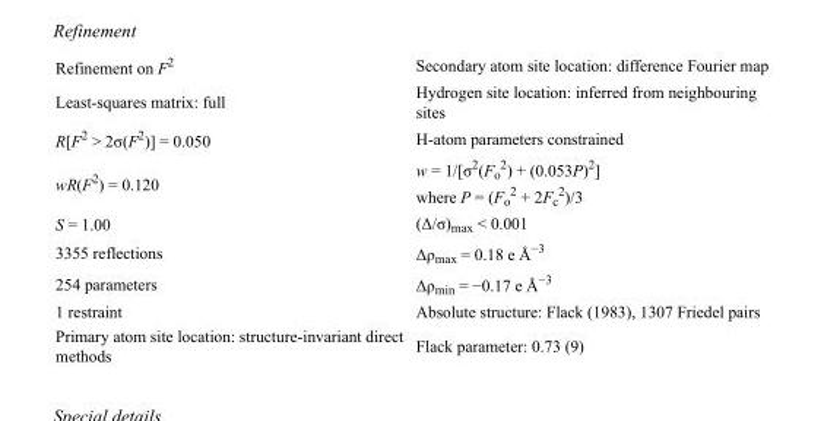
<table><tbody><tr><td>Refinement on F<sup>2</sup></td><td>Secondary atom site location: difference Fourier map</td></tr><tr><td>Least-squares matrix: full</td><td>Hydrogen site location: inferred from neighbouring sites</td></tr><tr><td>R[F<sup>2</sup> &gt; 2σ(F<sup>2</sup>)] = 0.050</td><td>H-atom parameters constrained</td></tr><tr><td>wR(F<sup>2</sup>) = 0.120</td><td>w = 1/[σ<sup>2</sup>(F<sub>o</sub> <sup>2</sup>) + (0.053P)<sup>2</sup>] where P = (F<sub>o</sub> <sup>2</sup> + 2F<sub>c</sub> <sup>2</sup>)/3</td></tr><tr><td>S = 1.00</td><td>(Δ/σ)<sub>max</sub> &lt; 0.001</td></tr><tr><td>3355 reflections</td><td>Δρ<sub>max</sub> = 0.18 e Å<sup>−3</sup></td></tr><tr><td>254 parameters</td><td>Δρ<sub>min</sub> = −0.17 e Å<sup>−3</sup></td></tr><tr><td>1 restraint</td><td>Absolute structure: Flack (1983), 1307 Friedel pairs</td></tr><tr><td>Primary atom site location: structure-invariant direct methods</td><td>Flack parameter: 0.73 (9)</td></tr></tbody></table>